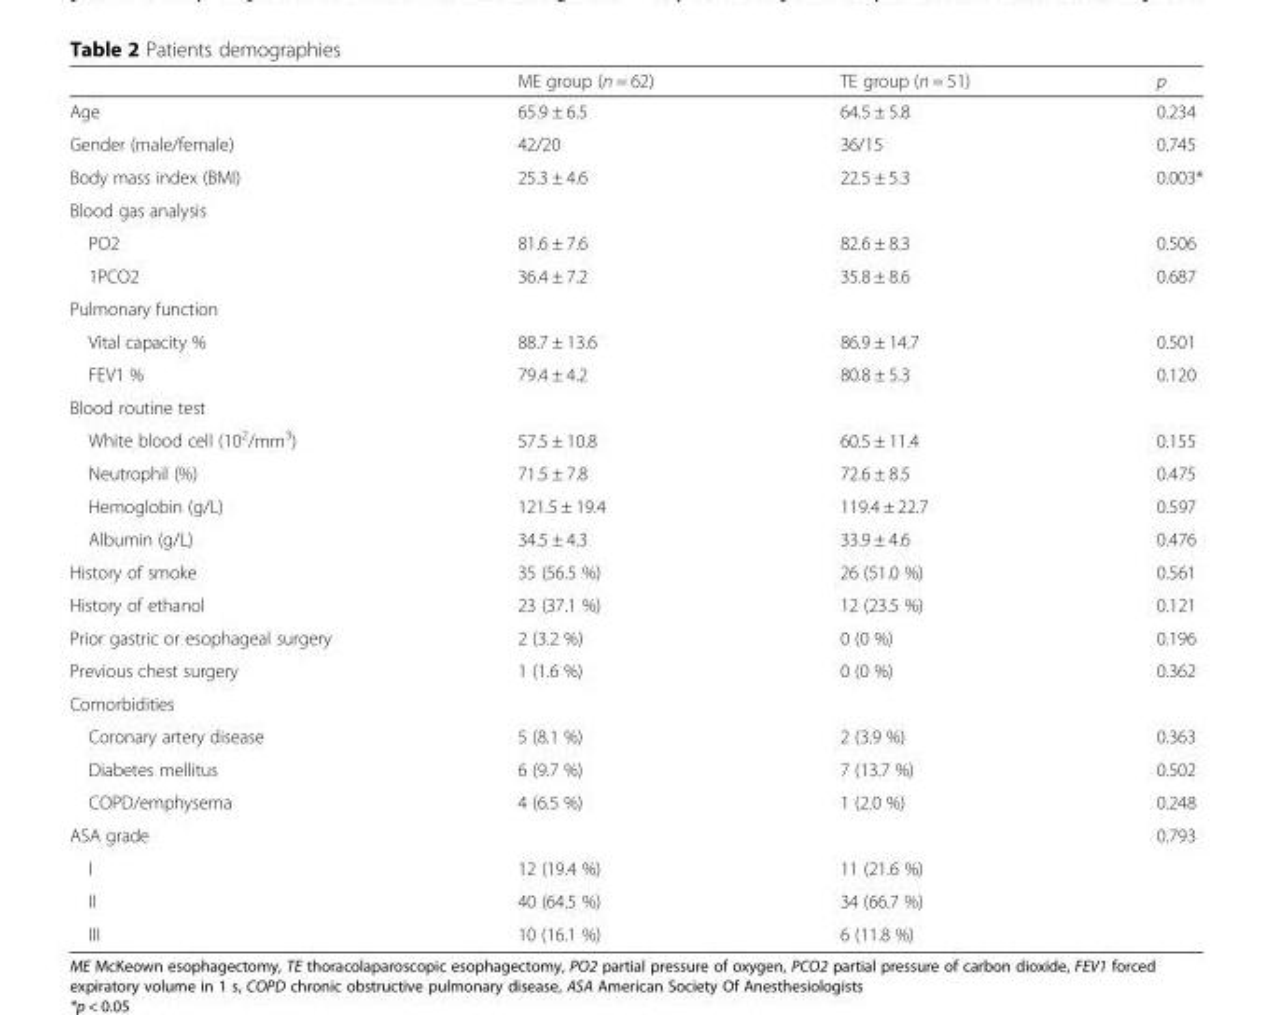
<table><thead><tr><td></td><td>ME group (n = 62)</td><td>TE group (n = 51)</td><td>p</td></tr></thead><tbody><tr><td>Age</td><td>65.9 ± 6.5</td><td>64.5 ± 5.8</td><td>0.234</td></tr><tr><td>Gender (male/female)</td><td>42/20</td><td>36/15</td><td>0.745</td></tr><tr><td>Body mass index (BMI)</td><td>25.3 ± 4.6</td><td>22.5 ± 5.3</td><td>0.003*</td></tr><tr><td colspan="4">Blood gas analysis</td></tr><tr><td>PO2</td><td>81.6 ± 7.6</td><td>82.6 ± 8.3</td><td>0.506</td></tr><tr><td>1PCO2</td><td>36.4 ± 7.2</td><td>35.8 ± 8.6</td><td>0.687</td></tr><tr><td colspan="4">Pulmonary function</td></tr><tr><td>Vital capacity %</td><td>88.7 ± 13.6</td><td>86.9 ± 14.7</td><td>0.501</td></tr><tr><td>FEV1 %</td><td>79.4 ± 4.2</td><td>80.8 ± 5.3</td><td>0.120</td></tr><tr><td colspan="4">Blood routine test</td></tr><tr><td>White blood cell (10<sup>2</sup>/mm<sup>3</sup>)</td><td>57.5 ± 10.8</td><td>60.5 ± 11.4</td><td>0.155</td></tr><tr><td>Neutrophil (%)</td><td>71.5 ± 7.8</td><td>72.6 ± 8.5</td><td>0.475</td></tr><tr><td>Hemoglobin (g/L)</td><td>121.5 ± 19.4</td><td>119.4 ± 22.7</td><td>0.597</td></tr><tr><td>Albumin (g/L)</td><td>34.5 ± 4.3</td><td>33.9 ± 4.6</td><td>0.476</td></tr><tr><td>History of smoke</td><td>35 (56.5 %)</td><td>26 (51.0 %)</td><td>0.561</td></tr><tr><td>History of ethanol</td><td>23 (37.1 %)</td><td>12 (23.5 %)</td><td>0.121</td></tr><tr><td>Prior gastric or esophageal surgery</td><td>2 (3.2 %)</td><td>0 (0 %)</td><td>0.196</td></tr><tr><td>Previous chest surgery</td><td>1 (1.6 %)</td><td>0 (0 %)</td><td>0.362</td></tr><tr><td colspan="4">Comorbidities</td></tr><tr><td>Coronary artery disease</td><td>5 (8.1 %)</td><td>2 (3.9 %)</td><td>0.363</td></tr><tr><td>Diabetes mellitus</td><td>6 (9.7 %)</td><td>7 (13.7 %)</td><td>0.502</td></tr><tr><td>COPD/emphysema</td><td>4 (6.5 %)</td><td>1 (2.0 %)</td><td>0.248</td></tr><tr><td>ASA grade</td><td></td><td></td><td>0.793</td></tr><tr><td>I</td><td>12 (19.4 %)</td><td>11 (21.6 %)</td><td></td></tr><tr><td>II</td><td>40 (64.5 %)</td><td>34 (66.7 %)</td><td></td></tr><tr><td>III</td><td>10 (16.1 %)</td><td>6 (11.8 %)</td><td></td></tr></tbody></table>